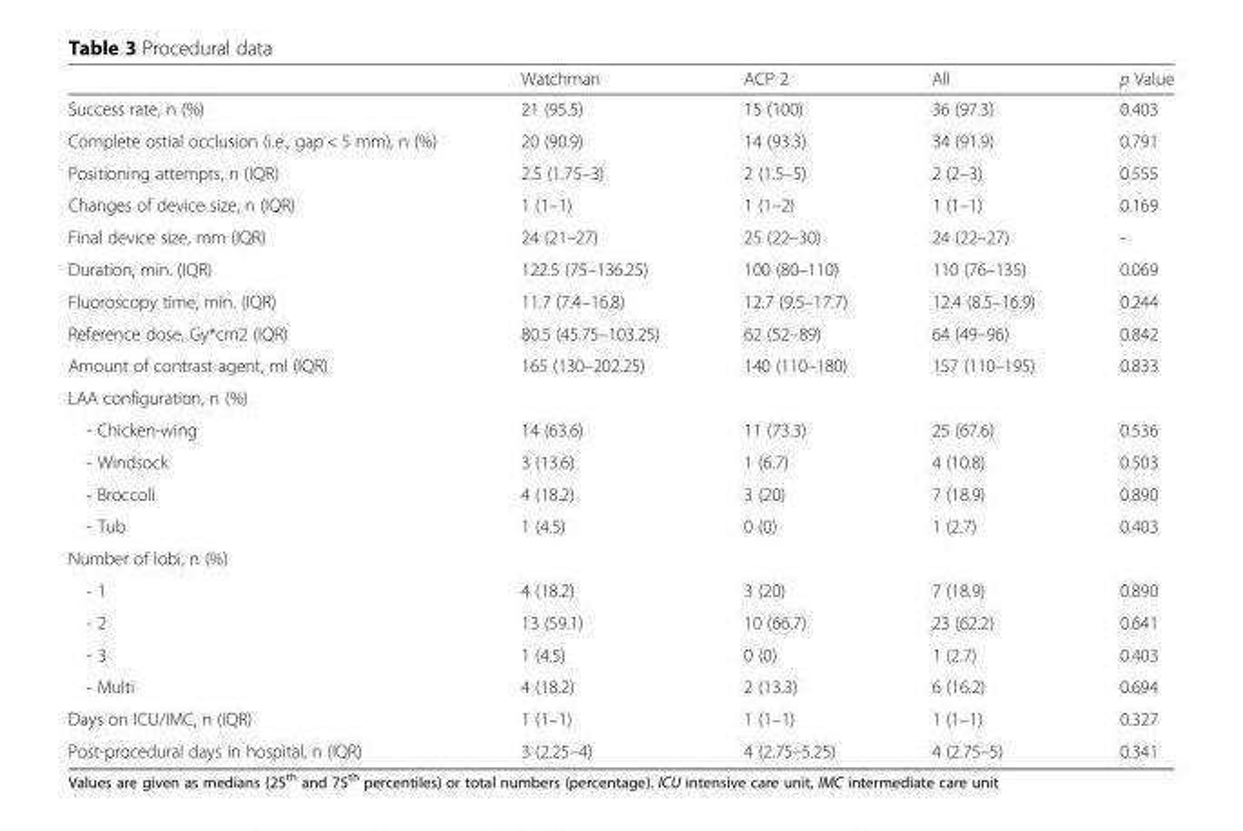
<table><thead><tr><td></td><td>Watchman</td><td>ACP 2</td><td>All</td><td>p Value</td></tr></thead><tbody><tr><td>Success rate, n (%)</td><td>21 (95.5)</td><td>15 (100)</td><td>36 (97.3)</td><td>0.403</td></tr><tr><td>Complete ostial occlusion (i.e., gap &lt; 5 mm), n (%)</td><td>20 (90.9)</td><td>14 (93.3)</td><td>34 (91.9)</td><td>0.791</td></tr><tr><td>Positioning attempts, n (IQR)</td><td>2.5 (1.75–3)</td><td>2 (1.5–5)</td><td>2 (2–3)</td><td>0.555</td></tr><tr><td>Changes of device size, n (IQR)</td><td>1 (1–1)</td><td>1 (1–2)</td><td>1 (1–1)</td><td>0.169</td></tr><tr><td>Final device size, mm (IQR)</td><td>24 (21–27)</td><td>25 (22–30)</td><td>24 (22–27)</td><td>-</td></tr><tr><td>Duration, min. (IQR)</td><td>122.5 (75–136.25)</td><td>100 (80–110)</td><td>110 (76–135)</td><td>0.069</td></tr><tr><td>Fluoroscopy time, min. (IQR)</td><td>11.7 (7.4–16.8)</td><td>12.7 (9.5–17.7)</td><td>12.4 (8.5–16.9)</td><td>0.244</td></tr><tr><td>Reference dose, Gy*cm2 (IQR)</td><td>80.5 (45.75–103.25)</td><td>62 (52–89)</td><td>64 (49–96)</td><td>0.842</td></tr><tr><td>Amount of contrast agent, ml (IQR)</td><td>165 (130–202.25)</td><td>140 (110–180)</td><td>157 (110–195)</td><td>0.833</td></tr><tr><td colspan="5">LAA configuration, n (%)</td></tr><tr><td>- Chicken-wing</td><td>14 (63.6)</td><td>11 (73.3)</td><td>25 (67.6)</td><td>0.536</td></tr><tr><td>- Windsock</td><td>3 (13.6)</td><td>1 (6.7)</td><td>4 (10.8)</td><td>0.503</td></tr><tr><td>- Broccoli</td><td>4 (18.2)</td><td>3 (20)</td><td>7 (18.9)</td><td>0.890</td></tr><tr><td>- Tub</td><td>1 (4.5)</td><td>0 (0)</td><td>1 (2.7)</td><td>0.403</td></tr><tr><td colspan="5">Number of lobi, n (%)</td></tr><tr><td>- 1</td><td>4 (18.2)</td><td>3 (20)</td><td>7 (18.9)</td><td>0.890</td></tr><tr><td>- 2</td><td>13 (59.1)</td><td>10 (66.7)</td><td>23 (62.2)</td><td>0.641</td></tr><tr><td>- 3</td><td>1 (4.5)</td><td>0 (0)</td><td>1 (2.7)</td><td>0.403</td></tr><tr><td>- Multi</td><td>4 (18.2)</td><td>2 (13.3)</td><td>6 (16.2)</td><td>0.694</td></tr><tr><td>Days on ICU/IMC, n (IQR)</td><td>1 (1–1)</td><td>1 (1–1)</td><td>1 (1–1)</td><td>0.327</td></tr><tr><td>Post-procedural days in hospital, n (IQR)</td><td>3 (2.25–4)</td><td>4 (2.75–5.25)</td><td>4 (2.75–5)</td><td>0.341</td></tr></tbody></table>